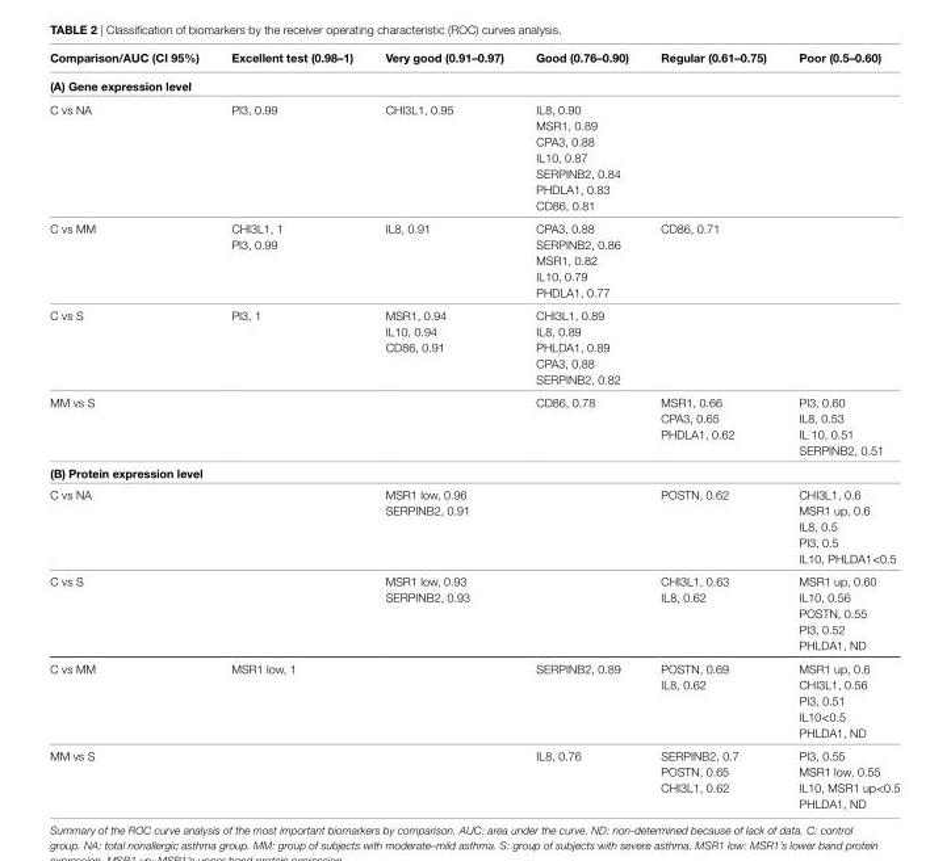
<table><thead><tr><td>comparison/aUc (ci 95%)</td><td>excellent test (0.98–1)</td><td>Very good (0.91–0.97)</td><td>good (0.76–0.90)</td><td>regular (0.61–0.75)</td><td>Poor (0.5–0.60)</td></tr><tr><td colspan="6">(a) gene expression level</td></tr></thead><tbody><tr><td>C vs NA</td><td>PI3, 0.99</td><td>CHI3L1, 0.95</td><td>IL8, 0.90 MSR1, 0.89 CPA3, 0.88 IL10, 0.87 SERPINB2, 0.84 PHDLA1, 0.83 CD86, 0.81</td><td></td><td></td></tr><tr><td>C vs MM</td><td>CHI3L1, 1 PI3, 0.99</td><td>IL8, 0.91</td><td>CPA3, 0.88 SERPINB2, 0.86 MSR1, 0.82 IL10, 0.79 PHDLA1, 0.77</td><td>CD86, 0.71</td><td></td></tr><tr><td>C vs S</td><td>PI3, 1</td><td>MSR1, 0.94 IL10, 0.94 CD86, 0.91</td><td>CHI3L1, 0.89 IL8, 0.89 PHLDA1, 0.89 CPA3, 0.88 SERPINB2, 0.82</td><td></td><td></td></tr><tr><td>MM vs S</td><td></td><td></td><td>CD86, 0.78</td><td>MSR1, 0.66 CPA3, 0.65 PHDLA1, 0.62</td><td>PI3, 0.60 IL8, 0.53 IL 10, 0.51 SERPINB2, 0.51</td></tr><tr><td colspan="6">(B) Protein expression level</td></tr><tr><td>C vs NA</td><td></td><td>MSR1 low, 0.96 SERPINB2, 0.91</td><td></td><td>POSTN, 0.62</td><td>CHI3L1, 0.6 MSR1 up, 0.6 IL8, 0.5 PI3, 0.5 IL10, PHLDA1&lt;0.5</td></tr><tr><td>C vs S</td><td></td><td>MSR1 low, 0.93 SERPINB2, 0.93</td><td></td><td>CHI3L1, 0.63 IL8, 0.62</td><td>MSR1 up, 0.60 IL10, 0.56 POSTN, 0.55 PI3, 0.52 PHLDA1, ND</td></tr><tr><td>C vs MM</td><td>MSR1 low, 1</td><td></td><td>SERPINB2, 0.89</td><td>POSTN, 0.69 IL8, 0.62</td><td>MSR1 up, 0.6 CHI3L1, 0.56 PI3, 0.51 IL10&lt;0.5 PHLDA1, ND</td></tr><tr><td>MM vs S</td><td></td><td></td><td>IL8, 0.76</td><td>SERPINB2, 0.7 POSTN, 0.65 CHI3L1, 0.62</td><td>PI3, 0.55 MSR1 low, 0.55 IL10, MSR1 up&lt;0.5 PHLDA1, ND</td></tr></tbody></table>